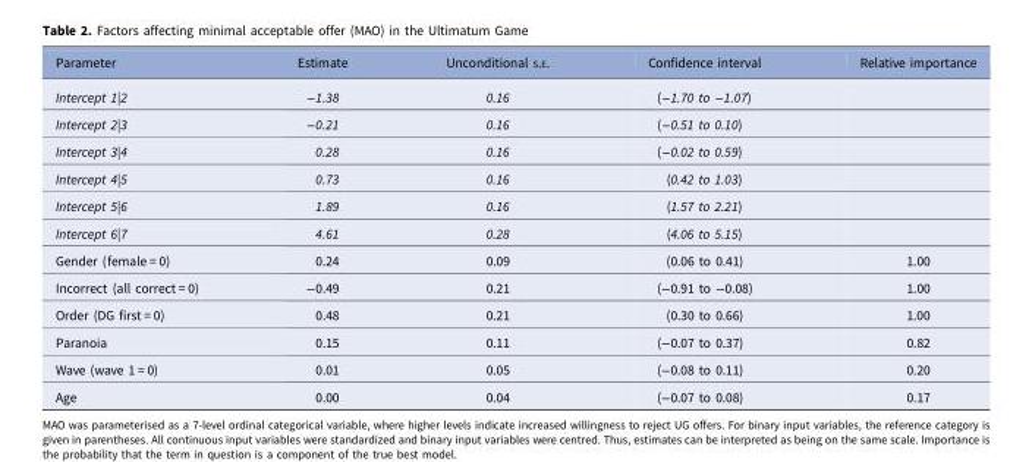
<table><thead><tr><td>Parameter</td><td>Estimate</td><td>Unconditional S.E.</td><td>Confidence interval</td><td>Relative importance</td></tr></thead><tbody><tr><td>Intercept 1|2</td><td>−1.38</td><td>0.16</td><td>(−1.70 to −1.07)</td><td></td></tr><tr><td>Intercept 2|3</td><td>−0.21</td><td>0.16</td><td>(−0.51 to 0.10)</td><td></td></tr><tr><td>Intercept 3|4</td><td>0.28</td><td>0.16</td><td>(−0.02 to 0.59)</td><td></td></tr><tr><td>Intercept 4|5</td><td>0.73</td><td>0.16</td><td>(0.42 to 1.03)</td><td></td></tr><tr><td>Intercept 5|6</td><td>1.89</td><td>0.16</td><td>(1.57 to 2.21)</td><td></td></tr><tr><td>Intercept 6|7</td><td>4.61</td><td>0.28</td><td>(4.06 to 5.15)</td><td></td></tr><tr><td>Gender (female = 0)</td><td>0.24</td><td>0.09</td><td>(0.06 to 0.41)</td><td>1.00</td></tr><tr><td>Incorrect (all correct = 0)</td><td>−0.49</td><td>0.21</td><td>(−0.91 to −0.08)</td><td>1.00</td></tr><tr><td>Order (DG first = 0)</td><td>0.48</td><td>0.21</td><td>(0.30 to 0.66)</td><td>1.00</td></tr><tr><td>Paranoia</td><td>0.15</td><td>0.11</td><td>(−0.07 to 0.37)</td><td>0.82</td></tr><tr><td>Wave (wave 1 = 0)</td><td>0.01</td><td>0.05</td><td>(−0.08 to 0.11)</td><td>0.20</td></tr><tr><td>Age</td><td>0.00</td><td>0.04</td><td>(−0.07 to 0.08)</td><td>0.17</td></tr></tbody></table>